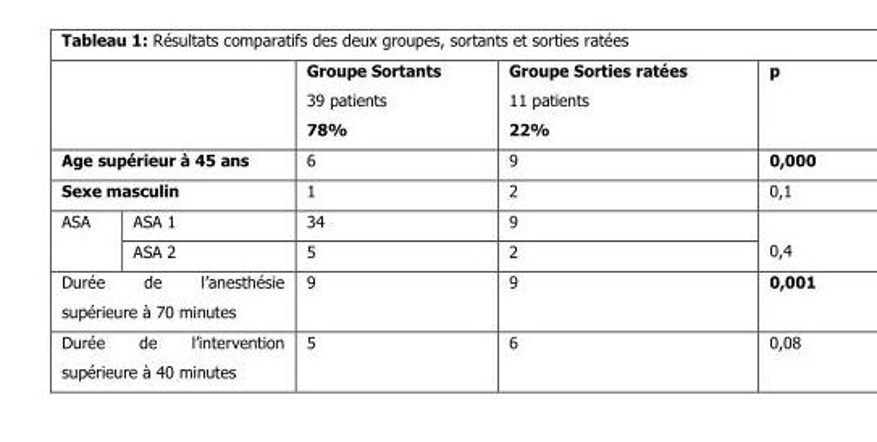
<table><thead><tr><td></td><td></td><td>Groupe Sortants 39 patients 78%</td><td>Groupe Sorties ratées 11 patients 22%</td><td>p</td></tr></thead><tbody><tr><td colspan="2">Age supérieur à 45 ans</td><td>6</td><td>9</td><td>0,000</td></tr><tr><td colspan="2">Sexe masculin</td><td>1</td><td>2</td><td>0,1</td></tr><tr><td rowspan="2">ASA</td><td>ASA 1</td><td>34</td><td>9</td><td rowspan="2">0,4</td></tr><tr><td>ASA 2</td><td>5</td><td>2</td></tr><tr><td colspan="2">Durée de l’anesthésie supérieure à 70 minutes</td><td>9</td><td>9</td><td>0,001</td></tr><tr><td colspan="2">Durée de l’intervention supérieure à 40 minutes</td><td>5</td><td>6</td><td>0,08</td></tr></tbody></table>